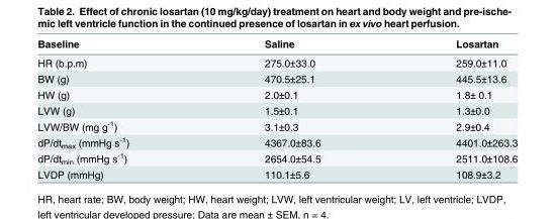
<table><thead><tr><td>Baseline</td><td>Saline</td><td>Losartan</td></tr></thead><tbody><tr><td>HR (b.p.m)</td><td>275.0±33.0</td><td>259.0±11.0</td></tr><tr><td>BW (g)</td><td>470.5±25.1</td><td>445.5±13.6</td></tr><tr><td>HW (g)</td><td>2.0±0.1</td><td>1.8± 0.1</td></tr><tr><td>LVW (g)</td><td>1.5±0.1</td><td>1.3±0.0</td></tr><tr><td>LVW/BW (mg g<sup>-1</sup>)</td><td>3.1±0.3</td><td>2.9±0.4</td></tr><tr><td>dP/dt<sub>max</sub> (mmHg s<sup>-1</sup>)</td><td>4367.0±83.6</td><td>4401.0±263.3</td></tr><tr><td>dP/dt<sub>min</sub> (mmHg s<sup>-1</sup>)</td><td>2654.0±54.5</td><td>2511.0±108.6</td></tr><tr><td>LVDP (mmHg)</td><td>110.1±5.6</td><td>108.9±3.2</td></tr></tbody></table>